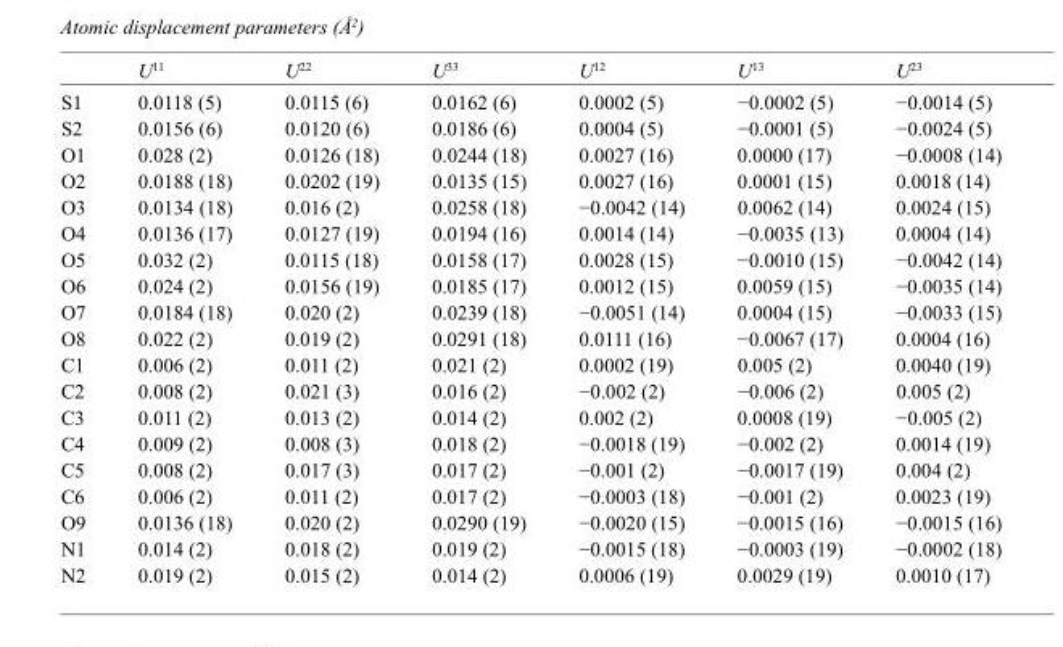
<table><thead><tr><td></td><td>U<sup>11</sup></td><td>U<sup>22</sup></td><td>U<sup>33</sup></td><td>U<sup>12</sup></td><td>U<sup>13</sup></td><td>U<sup>23</sup></td></tr></thead><tbody><tr><td>S1</td><td>0.0118 (5)</td><td>0.0115 (6)</td><td>0.0162 (6)</td><td>0.0002 (5)</td><td>−0.0002 (5)</td><td>−0.0014 (5)</td></tr><tr><td>S2</td><td>0.0156 (6)</td><td>0.0120 (6)</td><td>0.0186 (6)</td><td>0.0004 (5)</td><td>−0.0001 (5)</td><td>−0.0024 (5)</td></tr><tr><td>O1</td><td>0.028 (2)</td><td>0.0126 (18)</td><td>0.0244 (18)</td><td>0.0027 (16)</td><td>0.0000 (17)</td><td>−0.0008 (14)</td></tr><tr><td>O2</td><td>0.0188 (18)</td><td>0.0202 (19)</td><td>0.0135 (15)</td><td>0.0027 (16)</td><td>0.0001 (15)</td><td>0.0018 (14)</td></tr><tr><td>O3</td><td>0.0134 (18)</td><td>0.016 (2)</td><td>0.0258 (18)</td><td>−0.0042 (14)</td><td>0.0062 (14)</td><td>0.0024 (15)</td></tr><tr><td>O4</td><td>0.0136 (17)</td><td>0.0127 (19)</td><td>0.0194 (16)</td><td>0.0014 (14)</td><td>−0.0035 (13)</td><td>0.0004 (14)</td></tr><tr><td>O5</td><td>0.032 (2)</td><td>0.0115 (18)</td><td>0.0158 (17)</td><td>0.0028 (15)</td><td>−0.0010 (15)</td><td>−0.0042 (14)</td></tr><tr><td>O6</td><td>0.024 (2)</td><td>0.0156 (19)</td><td>0.0185 (17)</td><td>0.0012 (15)</td><td>0.0059 (15)</td><td>−0.0035 (14)</td></tr><tr><td>O7</td><td>0.0184 (18)</td><td>0.020 (2)</td><td>0.0239 (18)</td><td>−0.0051 (14)</td><td>0.0004 (15)</td><td>−0.0033 (15)</td></tr><tr><td>O8</td><td>0.022 (2)</td><td>0.019 (2)</td><td>0.0291 (18)</td><td>0.0111 (16)</td><td>−0.0067 (17)</td><td>0.0004 (16)</td></tr><tr><td>C1</td><td>0.006 (2)</td><td>0.011 (2)</td><td>0.021 (2)</td><td>0.0002 (19)</td><td>0.005 (2)</td><td>0.0040 (19)</td></tr><tr><td>C2</td><td>0.008 (2)</td><td>0.021 (3)</td><td>0.016 (2)</td><td>−0.002 (2)</td><td>−0.006 (2)</td><td>0.005 (2)</td></tr><tr><td>C3</td><td>0.011 (2)</td><td>0.013 (2)</td><td>0.014 (2)</td><td>0.002 (2)</td><td>0.0008 (19)</td><td>−0.005 (2)</td></tr><tr><td>C4</td><td>0.009 (2)</td><td>0.008 (3)</td><td>0.018 (2)</td><td>−0.0018 (19)</td><td>−0.002 (2)</td><td>0.0014 (19)</td></tr><tr><td>C5</td><td>0.008 (2)</td><td>0.017 (3)</td><td>0.017 (2)</td><td>−0.001 (2)</td><td>−0.0017 (19)</td><td>0.004 (2)</td></tr><tr><td>C6</td><td>0.006 (2)</td><td>0.011 (2)</td><td>0.017 (2)</td><td>−0.0003 (18)</td><td>−0.001 (2)</td><td>0.0023 (19)</td></tr><tr><td>O9</td><td>0.0136 (18)</td><td>0.020 (2)</td><td>0.0290 (19)</td><td>−0.0020 (15)</td><td>−0.0015 (16)</td><td>−0.0015 (16)</td></tr><tr><td>N1</td><td>0.014 (2)</td><td>0.018 (2)</td><td>0.019 (2)</td><td>−0.0015 (18)</td><td>−0.0003 (19)</td><td>−0.0002 (18)</td></tr><tr><td>N2</td><td>0.019 (2)</td><td>0.015 (2)</td><td>0.014 (2)</td><td>0.0006 (19)</td><td>0.0029 (19)</td><td>0.0010 (17)</td></tr></tbody></table>